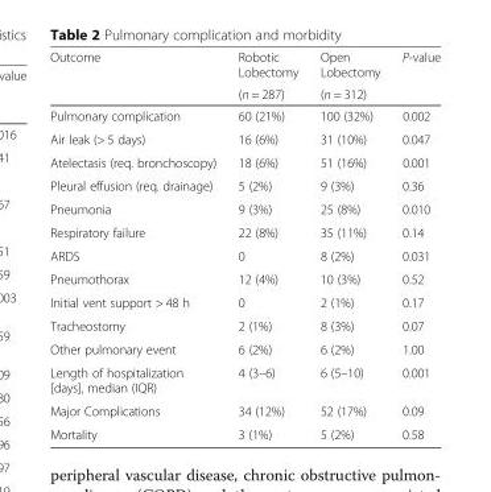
<table><thead><tr><td rowspan="2">Outcome</td><td rowspan="2">Robotic Lobectomy (n = 287)</td><td rowspan="2">Open Lobectomy (n = 312)</td><td rowspan="2">P-value</td></tr><tr></tr></thead><tbody><tr><td>Pulmonary complication</td><td>60 (21%)</td><td>100 (32%)</td><td>0.002</td></tr><tr><td>Air leak (&gt; 5 days)</td><td>16 (6%)</td><td>31 (10%)</td><td>0.047</td></tr><tr><td>Atelectasis (req. bronchoscopy)</td><td>18 (6%)</td><td>51 (16%)</td><td>0.001</td></tr><tr><td>Pleural effusion (req. drainage)</td><td>5 (2%)</td><td>9 (3%)</td><td>0.36</td></tr><tr><td>Pneumonia</td><td>9 (3%)</td><td>25 (8%)</td><td>0.010</td></tr><tr><td>Respiratory failure</td><td>22 (8%)</td><td>35 (11%)</td><td>0.14</td></tr><tr><td>ARDS</td><td>0</td><td>8 (2%)</td><td>0.031</td></tr><tr><td>Pneumothorax</td><td>12 (4%)</td><td>10 (3%)</td><td>0.52</td></tr><tr><td>Initial vent support &gt; 48 h</td><td>0</td><td>2 (1%)</td><td>0.17</td></tr><tr><td>Tracheostomy</td><td>2 (1%)</td><td>8 (3%)</td><td>0.07</td></tr><tr><td>Other pulmonary event</td><td>6 (2%)</td><td>6 (2%)</td><td>1.00</td></tr><tr><td>Length of hospitalization [days], median (IQR)</td><td>4 (3–6)</td><td>6 (5–10)</td><td>0.001</td></tr><tr><td>Major Complications</td><td>34 (12%)</td><td>52 (17%)</td><td>0.09</td></tr><tr><td>Mortality</td><td>3 (1%)</td><td>5 (2%)</td><td>0.58</td></tr></tbody></table>